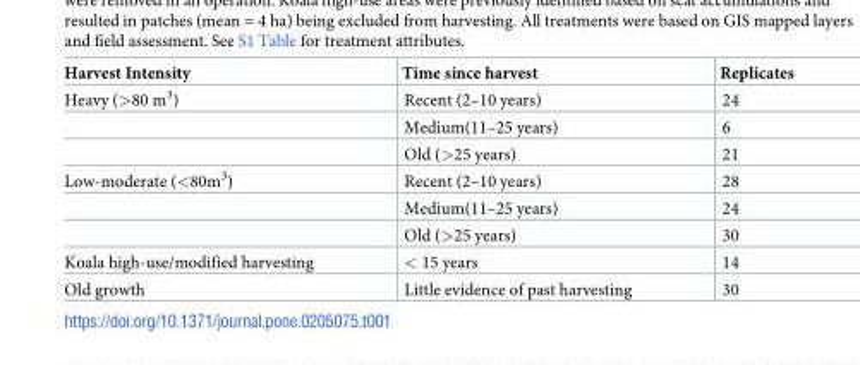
<table><thead><tr><td>Harvest Intensity</td><td>Time since harvest</td><td>Replicates</td></tr></thead><tbody><tr><td rowspan="3">Heavy (&gt;80 m<sup>3</sup>)</td><td>Recent (2–10 years)</td><td>24</td></tr><tr><td>Medium(11–25 years)</td><td>6</td></tr><tr><td>Old (&gt;25 years)</td><td>21</td></tr><tr><td rowspan="3">Low-moderate (&lt;80m<sup>3</sup>)</td><td>Recent (2–10 years)</td><td>28</td></tr><tr><td>Medium(11–25 years)</td><td>24</td></tr><tr><td>Old (&gt;25 years)</td><td>30</td></tr><tr><td>Koala high-use/modified harvesting</td><td>&lt; 15 years</td><td>14</td></tr><tr><td>Old growth</td><td>Little evidence of past harvesting</td><td>30</td></tr></tbody></table>